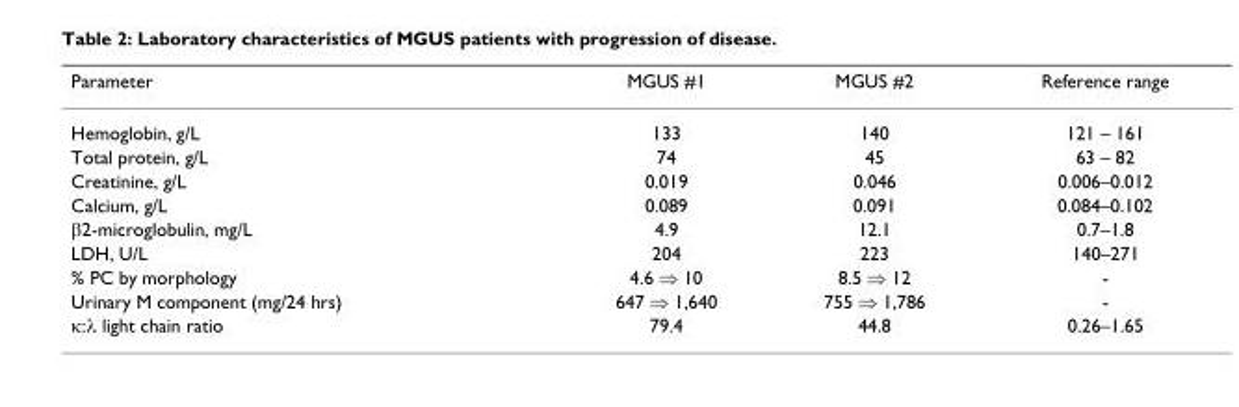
<table><thead><tr><td>Parameter</td><td>MGUS #1</td><td>MGUS #2</td><td>Reference range</td></tr></thead><tbody><tr><td>Hemoglobin, g/L</td><td>133</td><td>140</td><td>121 – 161</td></tr><tr><td>Total protein, g/L</td><td>74</td><td>45</td><td>63 – 82</td></tr><tr><td>Creatinine, g/L</td><td>0.019</td><td>0.046</td><td>0.006–0.012</td></tr><tr><td>Calcium, g/L</td><td>0.089</td><td>0.091</td><td>0.084–0.102</td></tr><tr><td>β2-microglobulin, mg/L</td><td>4.9</td><td>12.1</td><td>0.7–1.8</td></tr><tr><td>LDH, U/L</td><td>204</td><td>223</td><td>140–271</td></tr><tr><td>% PC by morphology</td><td>4.6 ⇒ 10</td><td>8.5 ⇒ 12</td><td>-</td></tr><tr><td>Urinary M component (mg/24 hrs)</td><td>647 ⇒ 1,640</td><td>755 ⇒ 1,786</td><td>-</td></tr><tr><td>κ:λ light chain ratio</td><td>79.4</td><td>44.8</td><td>0.26–1.65</td></tr></tbody></table>